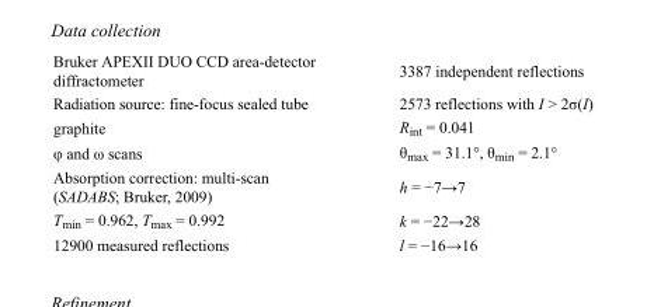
<table><tbody><tr><td>Bruker APEXII DUO CCD area-detector diffractometer</td><td>3387 independent reflections</td></tr><tr><td>Radiation source: fine-focus sealed tube</td><td>2573 reflections with I &gt; 2σ(I)</td></tr><tr><td>graphite</td><td>R<sub>int</sub> = 0.041</td></tr><tr><td>φ and ω scans</td><td>θ<sub>max</sub> = 31.1°, θ<sub>min</sub> = 2.1°</td></tr><tr><td>Absorption correction: multi-scan (SADABS; Bruker, 2009)</td><td>h = −7→7</td></tr><tr><td>T<sub>min</sub> = 0.962, T<sub>max</sub> = 0.992</td><td>k = −22→28</td></tr><tr><td>12900 measured reflections</td><td>l = −16→16</td></tr></tbody></table>